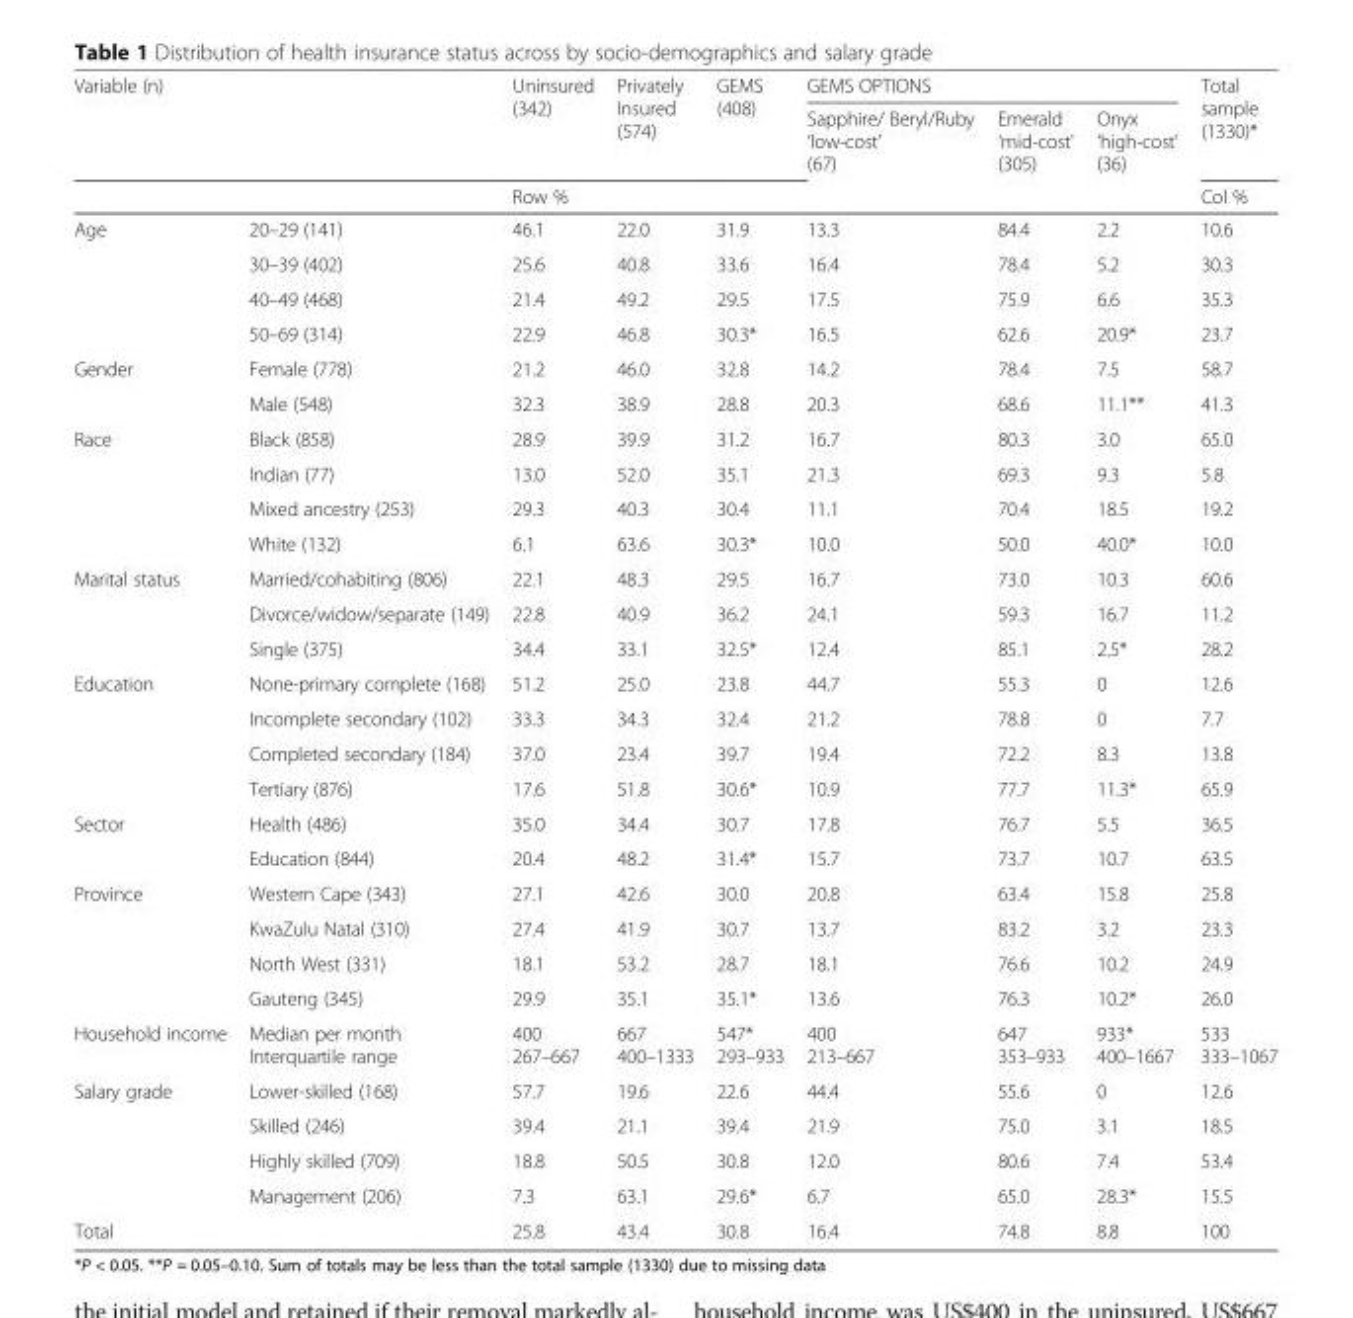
<table><thead><tr><td rowspan="2" colspan="2">Variable (n)</td><td rowspan="2">Uninsured (342)</td><td rowspan="2">Privately Insured (574)</td><td rowspan="2">GEMS (408)</td><td colspan="3">GEMS OPTIONS</td><td rowspan="3">Total sample (1330)* Col %</td></tr><tr><td>Sapphire/ Beryl/Ruby ‘low-cost’ (67)</td><td>Emerald ‘mid-cost’ (305)</td><td>Onyx ‘high-cost’ (36)</td></tr><tr><td></td><td></td><td colspan="6">Row %</td></tr></thead><tbody><tr><td rowspan="4">Age</td><td>20–29 (141)</td><td>46.1</td><td>22.0</td><td>31.9</td><td>13.3</td><td>84.4</td><td>2.2</td><td>10.6</td></tr><tr><td>30–39 (402)</td><td>25.6</td><td>40.8</td><td>33.6</td><td>16.4</td><td>78.4</td><td>5.2</td><td>30.3</td></tr><tr><td>40–49 (468)</td><td>21.4</td><td>49.2</td><td>29.5</td><td>17.5</td><td>75.9</td><td>6.6</td><td>35.3</td></tr><tr><td>50–69 (314)</td><td>22.9</td><td>46.8</td><td>30.3*</td><td>16.5</td><td>62.6</td><td>20.9*</td><td>23.7</td></tr><tr><td rowspan="2">Gender</td><td>Female (778)</td><td>21.2</td><td>46.0</td><td>32.8</td><td>14.2</td><td>78.4</td><td>7.5</td><td>58.7</td></tr><tr><td>Male (548)</td><td>32.3</td><td>38.9</td><td>28.8</td><td>20.3</td><td>68.6</td><td>11.1**</td><td>41.3</td></tr><tr><td rowspan="4">Race</td><td>Black (858)</td><td>28.9</td><td>39.9</td><td>31.2</td><td>16.7</td><td>80.3</td><td>3.0</td><td>65.0</td></tr><tr><td>Indian (77)</td><td>13.0</td><td>52.0</td><td>35.1</td><td>21.3</td><td>69.3</td><td>9.3</td><td>5.8</td></tr><tr><td>Mixed ancestry (253)</td><td>29.3</td><td>40.3</td><td>30.4</td><td>11.1</td><td>70.4</td><td>18.5</td><td>19.2</td></tr><tr><td>White (132)</td><td>6.1</td><td>63.6</td><td>30.3*</td><td>10.0</td><td>50.0</td><td>40.0*</td><td>10.0</td></tr><tr><td rowspan="3">Marital status</td><td>Married/cohabiting (806)</td><td>22.1</td><td>48.3</td><td>29.5</td><td>16.7</td><td>73.0</td><td>10.3</td><td>60.6</td></tr><tr><td>Divorce/widow/separate (149)</td><td>22.8</td><td>40.9</td><td>36.2</td><td>24.1</td><td>59.3</td><td>16.7</td><td>11.2</td></tr><tr><td>Single (375)</td><td>34.4</td><td>33.1</td><td>32.5*</td><td>12.4</td><td>85.1</td><td>2.5*</td><td>28.2</td></tr><tr><td rowspan="4">Education</td><td>None-primary complete (168)</td><td>51.2</td><td>25.0</td><td>23.8</td><td>44.7</td><td>55.3</td><td>0</td><td>12.6</td></tr><tr><td>Incomplete secondary (102)</td><td>33.3</td><td>34.3</td><td>32.4</td><td>21.2</td><td>78.8</td><td>0</td><td>7.7</td></tr><tr><td>Completed secondary (184)</td><td>37.0</td><td>23.4</td><td>39.7</td><td>19.4</td><td>72.2</td><td>8.3</td><td>13.8</td></tr><tr><td>Tertiary (876)</td><td>17.6</td><td>51.8</td><td>30.6*</td><td>10.9</td><td>77.7</td><td>11.3*</td><td>65.9</td></tr><tr><td rowspan="2">Sector</td><td>Health (486)</td><td>35.0</td><td>34.4</td><td>30.7</td><td>17.8</td><td>76.7</td><td>5.5</td><td>36.5</td></tr><tr><td>Education (844)</td><td>20.4</td><td>48.2</td><td>31.4*</td><td>15.7</td><td>73.7</td><td>10.7</td><td>63.5</td></tr><tr><td rowspan="4">Province</td><td>Western Cape (343)</td><td>27.1</td><td>42.6</td><td>30.0</td><td>20.8</td><td>63.4</td><td>15.8</td><td>25.8</td></tr><tr><td>KwaZulu Natal (310)</td><td>27.4</td><td>41.9</td><td>30.7</td><td>13.7</td><td>83.2</td><td>3.2</td><td>23.3</td></tr><tr><td>North West (331)</td><td>18.1</td><td>53.2</td><td>28.7</td><td>18.1</td><td>76.6</td><td>10.2</td><td>24.9</td></tr><tr><td>Gauteng (345)</td><td>29.9</td><td>35.1</td><td>35.1*</td><td>13.6</td><td>76.3</td><td>10.2*</td><td>26.0</td></tr><tr><td>Household income</td><td>Median per month Interquartile range</td><td>400 267–667</td><td>667 400–1333</td><td>547* 293–933</td><td>400 213–667</td><td>647 353–933</td><td>933* 400–1667</td><td>533 333–1067</td></tr><tr><td rowspan="4">Salary grade</td><td>Lower-skilled (168)</td><td>57.7</td><td>19.6</td><td>22.6</td><td>44.4</td><td>55.6</td><td>0</td><td>12.6</td></tr><tr><td>Skilled (246)</td><td>39.4</td><td>21.1</td><td>39.4</td><td>21.9</td><td>75.0</td><td>3.1</td><td>18.5</td></tr><tr><td>Highly skilled (709)</td><td>18.8</td><td>50.5</td><td>30.8</td><td>12.0</td><td>80.6</td><td>7.4</td><td>53.4</td></tr><tr><td>Management (206)</td><td>7.3</td><td>63.1</td><td>29.6*</td><td>6.7</td><td>65.0</td><td>28.3*</td><td>15.5</td></tr><tr><td>Total</td><td></td><td>25.8</td><td>43.4</td><td>30.8</td><td>16.4</td><td>74.8</td><td>8.8</td><td>100</td></tr></tbody></table>